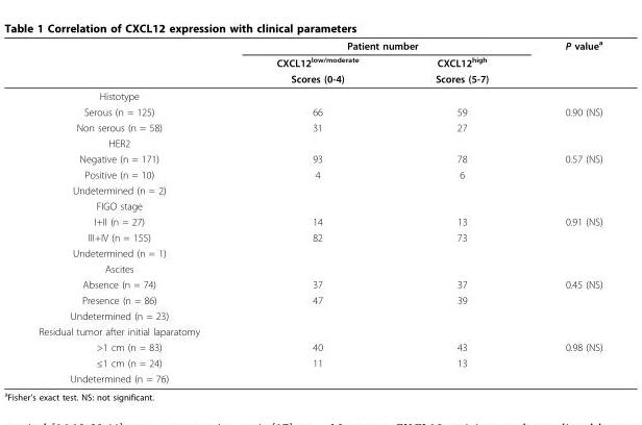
<table><thead><tr><td rowspan="3"></td><td colspan="2">Patient number</td><td rowspan="3">P value<sup>a</sup></td></tr><tr><td rowspan="2">CXCL12<sup>low/moderate</sup> Scores (0-4)</td><td rowspan="2">CXCL12<sup>high</sup> Scores (5-7)</td></tr><tr></tr></thead><tbody><tr><td colspan="4">Histotype</td></tr><tr><td>Serous (n = 125)</td><td>66</td><td>59</td><td>0.90 (NS)</td></tr><tr><td>Non serous (n = 58)</td><td>31</td><td>27</td><td></td></tr><tr><td colspan="4">HER2</td></tr><tr><td>Negative (n = 171)</td><td>93</td><td>78</td><td>0.57 (NS)</td></tr><tr><td>Positive (n = 10)</td><td>4</td><td>6</td><td></td></tr><tr><td colspan="4">Undetermined (n = 2)</td></tr><tr><td colspan="4">FIGO stage</td></tr><tr><td>I+II (n = 27)</td><td>14</td><td>13</td><td>0.91 (NS)</td></tr><tr><td>III+IV (n = 155)</td><td>82</td><td>73</td><td></td></tr><tr><td colspan="4">Undetermined (n = 1)</td></tr><tr><td colspan="4">Ascites</td></tr><tr><td>Absence (n = 74)</td><td>37</td><td>37</td><td>0.45 (NS)</td></tr><tr><td>Presence (n = 86)</td><td>47</td><td>39</td><td></td></tr><tr><td colspan="4">Undetermined (n = 23)</td></tr><tr><td colspan="4">Residual tumor after initial laparatomy</td></tr><tr><td>&gt;1 cm (n = 83)</td><td>40</td><td>43</td><td>0.98 (NS)</td></tr><tr><td>≤1 cm (n = 24)</td><td>11</td><td>13</td><td></td></tr><tr><td>Undetermined (n = 76)</td><td></td><td></td><td></td></tr></tbody></table>